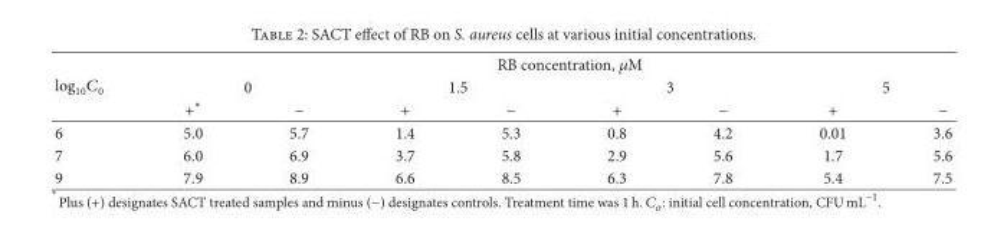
<table><thead><tr><td rowspan="3">log10𝐶𝐶0</td><td colspan="8">RB concentration, 𝜇𝜇M</td></tr><tr><td colspan="2">0</td><td colspan="2">1.5</td><td colspan="2">3</td><td colspan="2">5</td></tr><tr><td>+∗</td><td>−</td><td>+</td><td>−</td><td>+</td><td>−</td><td>+</td><td>−</td></tr></thead><tbody><tr><td>6</td><td>5.0</td><td>5.7</td><td>1.4</td><td>5.3</td><td>0.8</td><td>4.2</td><td>0.01</td><td>3.6</td></tr><tr><td>7</td><td>6.0</td><td>6.9</td><td>3.7</td><td>5.8</td><td>2.9</td><td>5.6</td><td>1.7</td><td>5.6</td></tr><tr><td>9</td><td>7.9</td><td>8.9</td><td>6.6</td><td>8.5</td><td>6.3</td><td>7.8</td><td>5.4</td><td>7.5</td></tr></tbody></table>